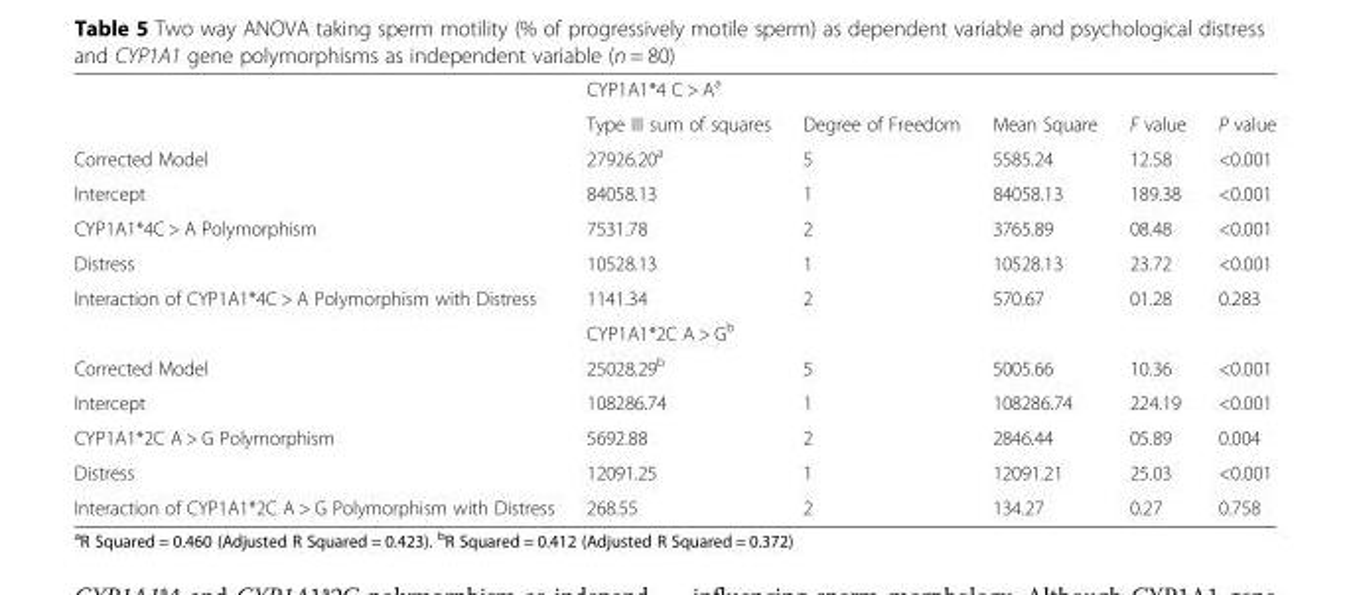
<table><thead><tr><td rowspan="2"></td><td colspan="5">CYP1A1*4 C &gt; A<sup>a</sup></td></tr><tr><td>Type III sum of squares</td><td>Degree of Freedom</td><td>Mean Square</td><td>F value</td><td>P value</td></tr></thead><tbody><tr><td>Corrected Model</td><td>27926.20<sup>a</sup></td><td>5</td><td>5585.24</td><td>12.58</td><td>&lt;0.001</td></tr><tr><td>Intercept</td><td>84058.13</td><td>1</td><td>84058.13</td><td>189.38</td><td>&lt;0.001</td></tr><tr><td>CYP1A1*4C &gt; A Polymorphism</td><td>7531.78</td><td>2</td><td>3765.89</td><td>08.48</td><td>&lt;0.001</td></tr><tr><td>Distress</td><td>10528.13</td><td>1</td><td>10528.13</td><td>23.72</td><td>&lt;0.001</td></tr><tr><td rowspan="2">Interaction of CYP1A1*4C &gt; A Polymorphism with Distress</td><td>1141.34</td><td>2</td><td>570.67</td><td>01.28</td><td>0.283</td></tr><tr><td colspan="5">CYP1A1*2C A &gt; G<sup>b</sup></td></tr><tr><td>Corrected Model</td><td>25028.29<sup>b</sup></td><td>5</td><td>5005.66</td><td>10.36</td><td>&lt;0.001</td></tr><tr><td>Intercept</td><td>108286.74</td><td>1</td><td>108286.74</td><td>224.19</td><td>&lt;0.001</td></tr><tr><td>CYP1A1*2C A &gt; G Polymorphism</td><td>5692.88</td><td>2</td><td>2846.44</td><td>05.89</td><td>0.004</td></tr><tr><td>Distress</td><td>12091.25</td><td>1</td><td>12091.21</td><td>25.03</td><td>&lt;0.001</td></tr><tr><td>Interaction of CYP1A1*2C A &gt; G Polymorphism with Distress</td><td>268.55</td><td>2</td><td>134.27</td><td>0.27</td><td>0.758</td></tr></tbody></table>